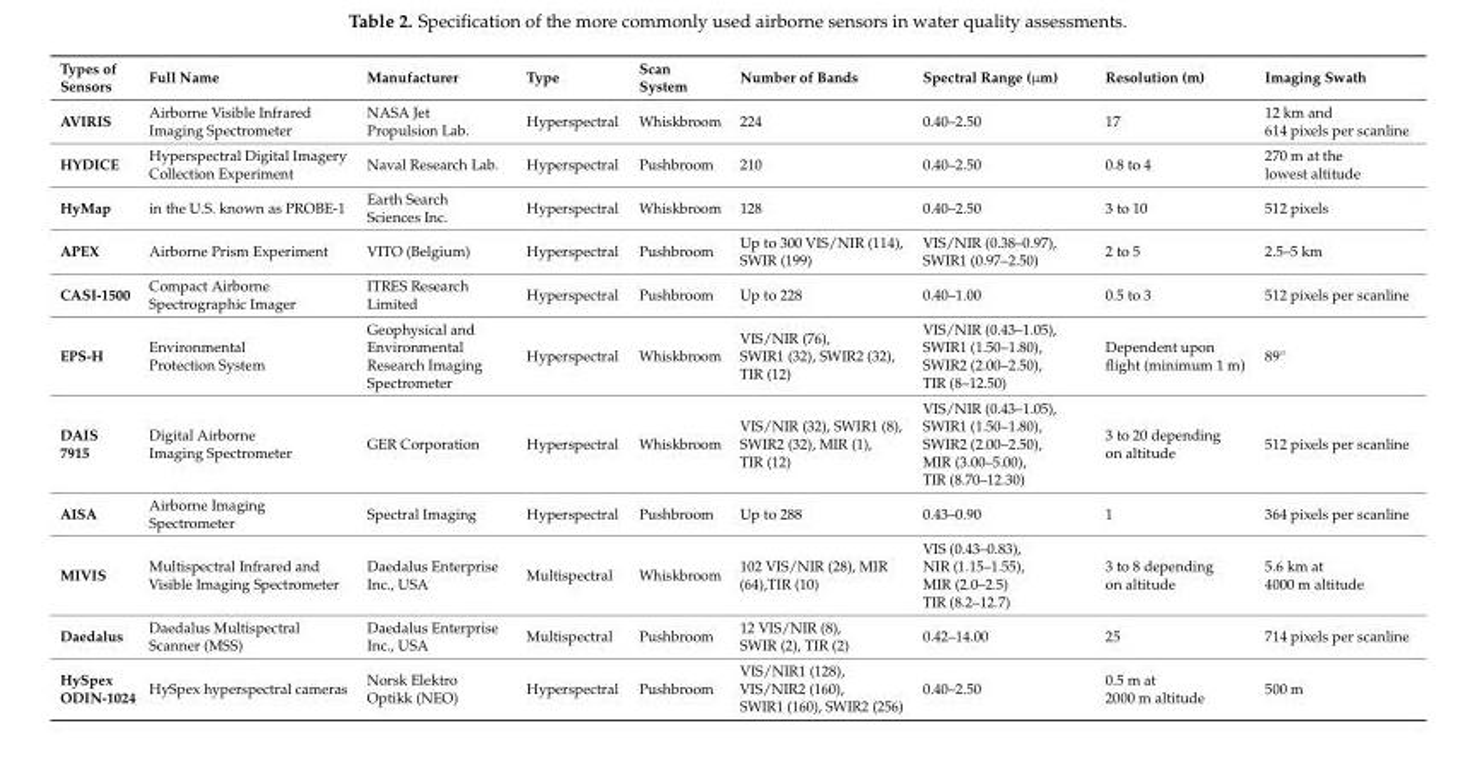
<table><thead><tr><td>Types of Sensors</td><td>Full Name</td><td>Manufacturer</td><td>Type</td><td>Scan System</td><td>Number of Bands</td><td>Spectral Range (µm)</td><td>Resolution (m)</td><td>Imaging Swath</td></tr></thead><tbody><tr><td>AVIRIS</td><td>Airborne Visible Infrared Imaging Spectrometer</td><td>NASA Jet Propulsion Lab.</td><td>Hyperspectral</td><td>Whiskbroom</td><td>224</td><td>0.40–2.50</td><td>17</td><td>12 km and 614 pixels per scanline</td></tr><tr><td>HYDICE</td><td>Hyperspectral Digital Imagery Collection Experiment</td><td>Naval Research Lab.</td><td>Hyperspectral</td><td>Pushbroom</td><td>210</td><td>0.40–2.50</td><td>0.8 to 4</td><td>270 m at the lowest altitude</td></tr><tr><td>HyMap</td><td>in the U.S. known as PROBE-1</td><td>Earth Search Sciences Inc.</td><td>Hyperspectral</td><td>Whiskbroom</td><td>128</td><td>0.40–2.50</td><td>3 to 10</td><td>512 pixels</td></tr><tr><td>APEX</td><td>Airborne Prism Experiment</td><td>VITO (Belgium)</td><td>Hyperspectral</td><td>Pushbroom</td><td>Up to 300 VIS/NIR (114), SWIR (199)</td><td>VIS/NIR (0.38–0.97), SWIR1 (0.97–2.50)</td><td>2 to 5</td><td>2.5–5 km</td></tr><tr><td>CASI-1500</td><td>Compact Airborne Spectrographic Imager</td><td>ITRES Research Limited</td><td>Hyperspectral</td><td>Pushbroom</td><td>Up to 228</td><td>0.40–1.00</td><td>0.5 to 3</td><td>512 pixels per scanline</td></tr><tr><td>EPS-H</td><td>Environmental Protection System</td><td>Geophysical and Environmental Research Imaging Spectrometer</td><td>Hyperspectral</td><td>Whiskbroom</td><td>VIS/NIR (76), SWIR1 (32), SWIR2 (32), TIR (12)</td><td>VIS/NIR (0.43–1.05), SWIR1 (1.50–1.80), SWIR2 (2.00–2.50), TIR (8–12.50)</td><td>Dependent upon flight (minimum 1 m)</td><td>89◦</td></tr><tr><td>DAIS 7915</td><td>Digital Airborne Imaging Spectrometer</td><td>GER Corporation</td><td>Hyperspectral</td><td>Whiskbroom</td><td>VIS/NIR (32), SWIR1 (8), SWIR2 (32), MIR (1), TIR (12)</td><td>VIS/NIR (0.43–1.05), SWIR1 (1.50–1.80), SWIR2 (2.00–2.50), MIR (3.00–5.00), TIR (8.70–12.30)</td><td>3 to 20 depending on altitude</td><td>512 pixels per scanline</td></tr><tr><td>AISA</td><td>Airborne Imaging Spectrometer</td><td>Spectral Imaging</td><td>Hyperspectral</td><td>Pushbroom</td><td>Up to 288</td><td>0.43–0.90</td><td>1</td><td>364 pixels per scanline</td></tr><tr><td>MIVIS</td><td>Multispectral Infrared and Visible Imaging Spectrometer</td><td>Daedalus Enterprise Inc., USA</td><td>Multispectral</td><td>Whiskbroom</td><td>102 VIS/NIR (28), MIR (64),TIR (10)</td><td>VIS (0.43–0.83), NIR (1.15–1.55), MIR (2.0–2.5) TIR (8.2–12.7)</td><td>3 to 8 depending on altitude</td><td>5.6 km at 4000 m altitude</td></tr><tr><td>Daedalus</td><td>Daedalus Multispectral Scanner (MSS)</td><td>Daedalus Enterprise Inc., USA</td><td>Multispectral</td><td>Pushbroom</td><td>12 VIS/NIR (8), SWIR (2), TIR (2)</td><td>0.42–14.00</td><td>25</td><td>714 pixels per scanline</td></tr><tr><td>HySpex ODIN-1024</td><td>HySpex hyperspectral cameras</td><td>Norsk Elektro Optikk (NEO)</td><td>Hyperspectral</td><td>Pushbroom</td><td>VIS/NIR1 (128), VIS/NIR2 (160), SWIR1 (160), SWIR2 (256)</td><td>0.40–2.50</td><td>0.5 m at 2000 m altitude</td><td>500 m</td></tr></tbody></table>